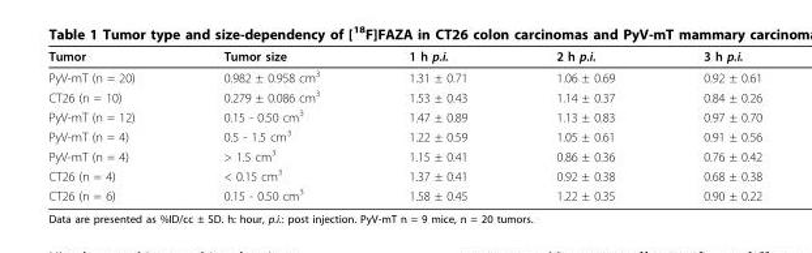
<table><thead><tr><td>Tumor</td><td>Tumor size</td><td>1 h p.i.</td><td>2 h p.i.</td><td>3 h p.i.</td></tr></thead><tbody><tr><td>PyV-mT (n = 20)</td><td>0.982 ± 0.958 cm<sup>3</sup></td><td>1.31 ± 0.71</td><td>1.06 ± 0.69</td><td>0.92 ± 0.61</td></tr><tr><td>CT26 (n = 10)</td><td>0.279 ± 0.086 cm<sup>3</sup></td><td>1.53 ± 0.43</td><td>1.14 ± 0.37</td><td>0.84 ± 0.26</td></tr><tr><td>PyV-mT (n = 12)</td><td>0.15 - 0.50 cm<sup>3</sup></td><td>1.47 ± 0.89</td><td>1.13 ± 0.83</td><td>0.97 ± 0.70</td></tr><tr><td>PyV-mT (n = 4)</td><td>0.5 - 1.5 cm<sup>3</sup></td><td>1.22 ± 0.59</td><td>1.05 ± 0.61</td><td>0.91 ± 0.56</td></tr><tr><td>PyV-mT (n = 4)</td><td>&gt; 1.5 cm<sup>3</sup></td><td>1.15 ± 0.41</td><td>0.86 ± 0.36</td><td>0.76 ± 0.42</td></tr><tr><td>CT26 (n = 4)</td><td>&lt; 0.15 cm<sup>3</sup></td><td>1.37 ± 0.41</td><td>0.92 ± 0.38</td><td>0.68 ± 0.38</td></tr><tr><td>CT26 (n = 6)</td><td>0.15 - 0.50 cm<sup>3</sup></td><td>1.58 ± 0.45</td><td>1.22 ± 0.35</td><td>0.90 ± 0.22</td></tr></tbody></table>